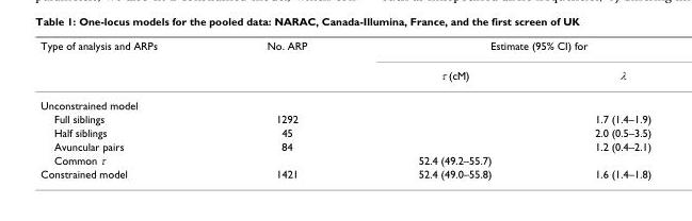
<table><thead><tr><td rowspan="2">Type of analysis and ARPs</td><td rowspan="2">No. ARP</td><td colspan="2">Estimate (95% CI) for</td></tr><tr><td>τ (cM)</td><td>λ</td></tr></thead><tbody><tr><td colspan="4">Unconstrained model</td></tr><tr><td>Full siblings</td><td>1292</td><td></td><td>1.7 (1.4–1.9)</td></tr><tr><td>Half siblings</td><td>45</td><td></td><td>2.0 (0.5–3.5)</td></tr><tr><td>Avuncular pairs</td><td>84</td><td></td><td>1.2 (0.4–2.1)</td></tr><tr><td>Common τ</td><td></td><td>52.4 (49.2–55.7)</td><td></td></tr><tr><td>Constrained model</td><td>1421</td><td>52.4 (49.0–55.8)</td><td>1.6 (1.4–1.8)</td></tr></tbody></table>